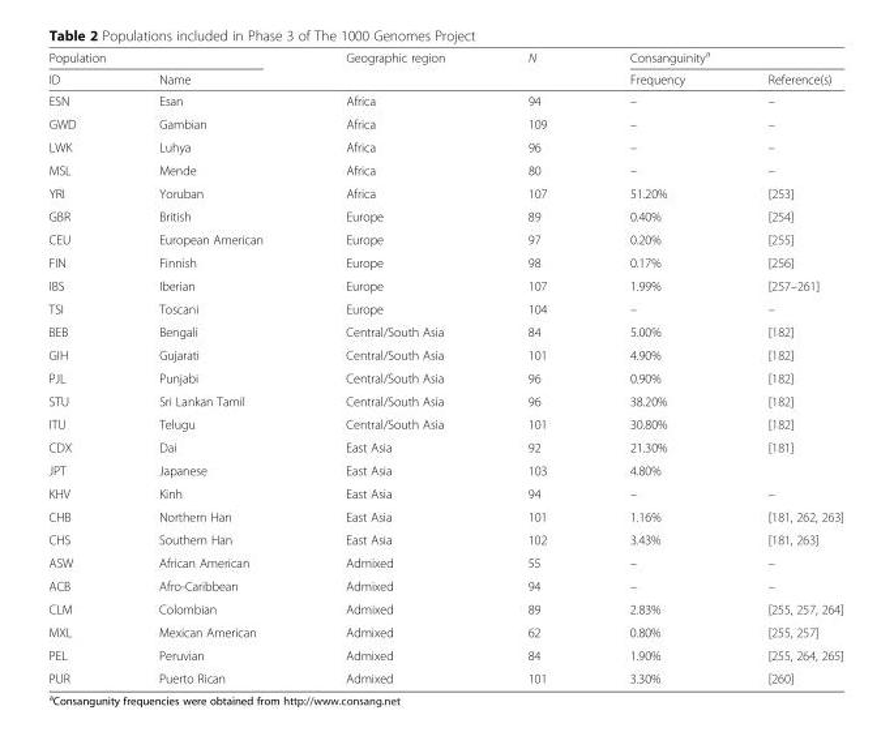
<table><thead><tr><td colspan="2">Population</td><td rowspan="2">Geographic region</td><td rowspan="2">N</td><td colspan="2">Consanguinity<sup>a</sup></td></tr><tr><td>ID</td><td>Name</td><td>Frequency</td><td>Reference(s)</td></tr></thead><tbody><tr><td>ESN</td><td>Esan</td><td>Africa</td><td>94</td><td>–</td><td>–</td></tr><tr><td>GWD</td><td>Gambian</td><td>Africa</td><td>109</td><td>–</td><td>–</td></tr><tr><td>LWK</td><td>Luhya</td><td>Africa</td><td>96</td><td>–</td><td>–</td></tr><tr><td>MSL</td><td>Mende</td><td>Africa</td><td>80</td><td>–</td><td>–</td></tr><tr><td>YRI</td><td>Yoruban</td><td>Africa</td><td>107</td><td>51.20%</td><td>[253]</td></tr><tr><td>GBR</td><td>British</td><td>Europe</td><td>89</td><td>0.40%</td><td>[254]</td></tr><tr><td>CEU</td><td>European American</td><td>Europe</td><td>97</td><td>0.20%</td><td>[255]</td></tr><tr><td>FIN</td><td>Finnish</td><td>Europe</td><td>98</td><td>0.17%</td><td>[256]</td></tr><tr><td>IBS</td><td>Iberian</td><td>Europe</td><td>107</td><td>1.99%</td><td>[257–261]</td></tr><tr><td>TSI</td><td>Toscani</td><td>Europe</td><td>104</td><td>–</td><td>–</td></tr><tr><td>BEB</td><td>Bengali</td><td>Central/South Asia</td><td>84</td><td>5.00%</td><td>[182]</td></tr><tr><td>GIH</td><td>Gujarati</td><td>Central/South Asia</td><td>101</td><td>4.90%</td><td>[182]</td></tr><tr><td>PJL</td><td>Punjabi</td><td>Central/South Asia</td><td>96</td><td>0.90%</td><td>[182]</td></tr><tr><td>STU</td><td>Sri Lankan Tamil</td><td>Central/South Asia</td><td>96</td><td>38.20%</td><td>[182]</td></tr><tr><td>ITU</td><td>Telugu</td><td>Central/South Asia</td><td>101</td><td>30.80%</td><td>[182]</td></tr><tr><td>CDX</td><td>Dai</td><td>East Asia</td><td>92</td><td>21.30%</td><td>[181]</td></tr><tr><td>JPT</td><td>Japanese</td><td>East Asia</td><td>103</td><td>4.80%</td><td></td></tr><tr><td>KHV</td><td>Kinh</td><td>East Asia</td><td>94</td><td>–</td><td>–</td></tr><tr><td>CHB</td><td>Northern Han</td><td>East Asia</td><td>101</td><td>1.16%</td><td>[181, 262, 263]</td></tr><tr><td>CHS</td><td>Southern Han</td><td>East Asia</td><td>102</td><td>3.43%</td><td>[181, 263]</td></tr><tr><td>ASW</td><td>African American</td><td>Admixed</td><td>55</td><td>–</td><td>–</td></tr><tr><td>ACB</td><td>Afro-Caribbean</td><td>Admixed</td><td>94</td><td>–</td><td>–</td></tr><tr><td>CLM</td><td>Colombian</td><td>Admixed</td><td>89</td><td>2.83%</td><td>[255, 257, 264]</td></tr><tr><td>MXL</td><td>Mexican American</td><td>Admixed</td><td>62</td><td>0.80%</td><td>[255, 257]</td></tr><tr><td>PEL</td><td>Peruvian</td><td>Admixed</td><td>84</td><td>1.90%</td><td>[255, 264, 265]</td></tr><tr><td>PUR</td><td>Puerto Rican</td><td>Admixed</td><td>101</td><td>3.30%</td><td>[260]</td></tr></tbody></table>